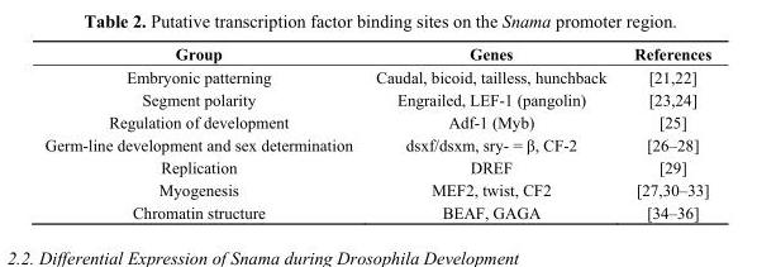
<table><thead><tr><td>Group</td><td>Genes</td><td>References</td></tr></thead><tbody><tr><td>Embryonic patterning</td><td>Caudal, bicoid, tailless, hunchback</td><td>[21,22]</td></tr><tr><td>Segment polarity</td><td>Engrailed, LEF-1 (pangolin)</td><td>[23,24]</td></tr><tr><td>Regulation of development</td><td>Adf-1 (Myb)</td><td>[25]</td></tr><tr><td>Germ-line development and sex determination</td><td>dsxf/dsxm, sry- = β, CF-2</td><td>[26–28]</td></tr><tr><td>Replication</td><td>DREF</td><td>[29]</td></tr><tr><td>Myogenesis</td><td>MEF2, twist, CF2</td><td>[27,30–33]</td></tr><tr><td>Chromatin structure</td><td>BEAF, GAGA</td><td>[34–36]</td></tr></tbody></table>